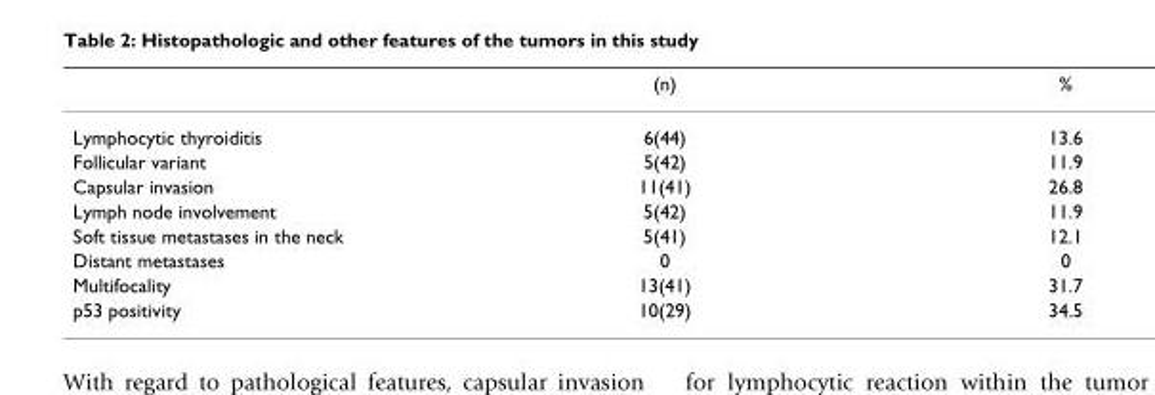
<table><thead><tr><td></td><td>(n)</td><td>%</td></tr></thead><tbody><tr><td>Lymphocytic thyroiditis</td><td>6(44)</td><td>13.6</td></tr><tr><td>Follicular variant</td><td>5(42)</td><td>11.9</td></tr><tr><td>Capsular invasion</td><td>11(41)</td><td>26.8</td></tr><tr><td>Lymph node involvement</td><td>5(42)</td><td>11.9</td></tr><tr><td>Soft tissue metastases in the neck</td><td>5(41)</td><td>12.1</td></tr><tr><td>Distant metastases</td><td>0</td><td>0</td></tr><tr><td>Multifocality</td><td>13(41)</td><td>31.7</td></tr><tr><td>p53 positivity</td><td>10(29)</td><td>34.5</td></tr></tbody></table>